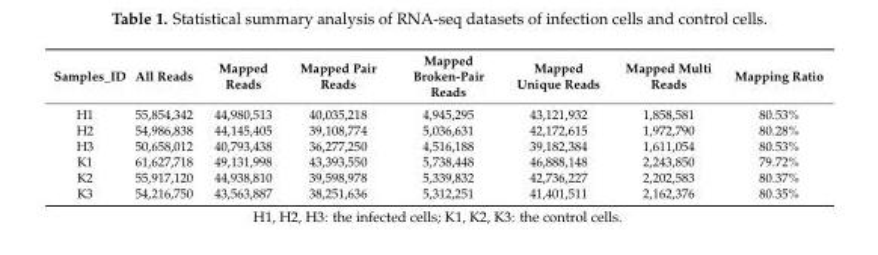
<table><thead><tr><td>Samples_ID</td><td>All Reads</td><td>Mapped Reads</td><td>Mapped Pair Reads</td><td>Mapped Broken-Pair Reads</td><td>Mapped Unique Reads</td><td>Mapped Multi Reads</td><td>Mapping Ratio</td></tr></thead><tbody><tr><td>H1</td><td>55,854,342</td><td>44,980,513</td><td>40,035,218</td><td>4,945,295</td><td>43,121,932</td><td>1,858,581</td><td>80.53%</td></tr><tr><td>H2</td><td>54,986,838</td><td>44,145,405</td><td>39,108,774</td><td>5,036,631</td><td>42,172,615</td><td>1,972,790</td><td>80.28%</td></tr><tr><td>H3</td><td>50,658,012</td><td>40,793,438</td><td>36,277,250</td><td>4,516,188</td><td>39,182,384</td><td>1,611,054</td><td>80.53%</td></tr><tr><td>K1</td><td>61,627,718</td><td>49,131,998</td><td>43,393,550</td><td>5,738,448</td><td>46,888,148</td><td>2,243,850</td><td>79.72%</td></tr><tr><td>K2</td><td>55,917,120</td><td>44,938,810</td><td>39,598,978</td><td>5,339,832</td><td>42,736,227</td><td>2,202,583</td><td>80.37%</td></tr><tr><td>K3</td><td>54,216,750</td><td>43,563,887</td><td>38,251,636</td><td>5,312,251</td><td>41,401,511</td><td>2,162,376</td><td>80.35%</td></tr></tbody></table>